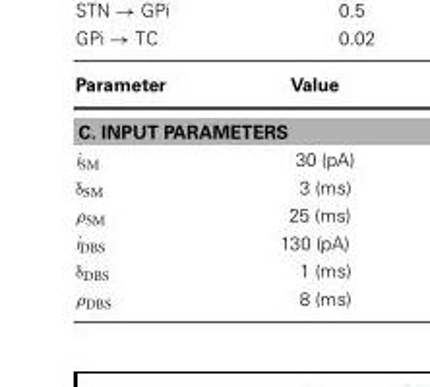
<table><thead><tr><td>Parameter</td><td>Value</td></tr></thead><tbody><tr><td colspan="2">C. INPUT PARAMETERS</td></tr><tr><td>i<sub>SM</sub></td><td>30 (pA)</td></tr><tr><td>δ<sub>SM</sub></td><td>3 (ms)</td></tr><tr><td>ρ<sub>SM</sub></td><td>25 (ms)</td></tr><tr><td>i<sub>DBS</sub></td><td>130 (pA)</td></tr><tr><td>δ<sub>DBS</sub></td><td>1 (ms)</td></tr><tr><td>ρ<sub>DBS</sub></td><td>8 (ms)</td></tr></tbody></table>